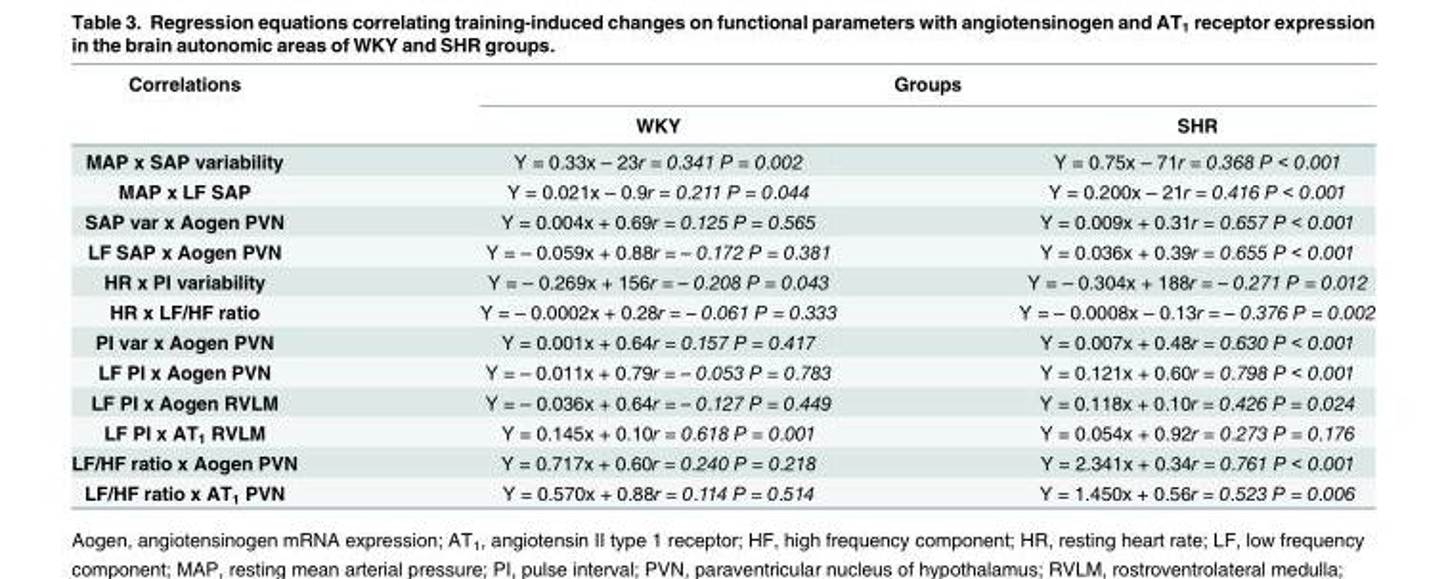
<table><thead><tr><td rowspan="2">Correlations</td><td colspan="2">Groups</td></tr><tr><td>WKY</td><td>SHR</td></tr></thead><tbody><tr><td>MAP x SAP variability</td><td>Y = 0.33x – 23r = 0.341 P = 0.002</td><td>Y = 0.75x – 71r = 0.368 P &lt; 0.001</td></tr><tr><td>MAP x LF SAP</td><td>Y = 0.021x – 0.9r = 0.211 P = 0.044</td><td>Y = 0.200x – 21r = 0.416 P &lt; 0.001</td></tr><tr><td>SAP var x Aogen PVN</td><td>Y = 0.004x + 0.69r = 0.125 P = 0.565</td><td>Y = 0.009x + 0.31r = 0.657 P &lt; 0.001</td></tr><tr><td>LF SAP x Aogen PVN</td><td>Y = – 0.059x + 0.88r = – 0.172 P = 0.381</td><td>Y = 0.036x + 0.39r = 0.655 P &lt; 0.001</td></tr><tr><td>HR x PI variability</td><td>Y = – 0.269x + 156r = – 0.208 P = 0.043</td><td>Y = – 0.304x + 188r = – 0.271 P = 0.012</td></tr><tr><td>HR x LF/HF ratio</td><td>Y = – 0.0002x + 0.28r = – 0.061 P = 0.333</td><td>Y = – 0.0008x – 0.13r = – 0.376 P = 0.002</td></tr><tr><td>PI var x Aogen PVN</td><td>Y = 0.001x + 0.64r = 0.157 P = 0.417</td><td>Y = 0.007x + 0.48r = 0.630 P &lt; 0.001</td></tr><tr><td>LF PI x Aogen PVN</td><td>Y = – 0.011x + 0.79r = – 0.053 P = 0.783</td><td>Y = 0.121x + 0.60r = 0.798 P &lt; 0.001</td></tr><tr><td>LF PI x Aogen RVLM</td><td>Y = – 0.036x + 0.64r = – 0.127 P = 0.449</td><td>Y = 0.118x + 0.10r = 0.426 P = 0.024</td></tr><tr><td>LF PI x AT<sub>1</sub> RVLM</td><td>Y = 0.145x + 0.10r = 0.618 P = 0.001</td><td>Y = 0.054x + 0.92r = 0.273 P = 0.176</td></tr><tr><td>LF/HF ratio x Aogen PVN</td><td>Y = 0.717x + 0.60r = 0.240 P = 0.218</td><td>Y = 2.341x + 0.34r = 0.761 P &lt; 0.001</td></tr><tr><td>LF/HF ratio x AT<sub>1</sub> PVN</td><td>Y = 0.570x + 0.88r = 0.114 P = 0.514</td><td>Y = 1.450x + 0.56r = 0.523 P = 0.006</td></tr></tbody></table>